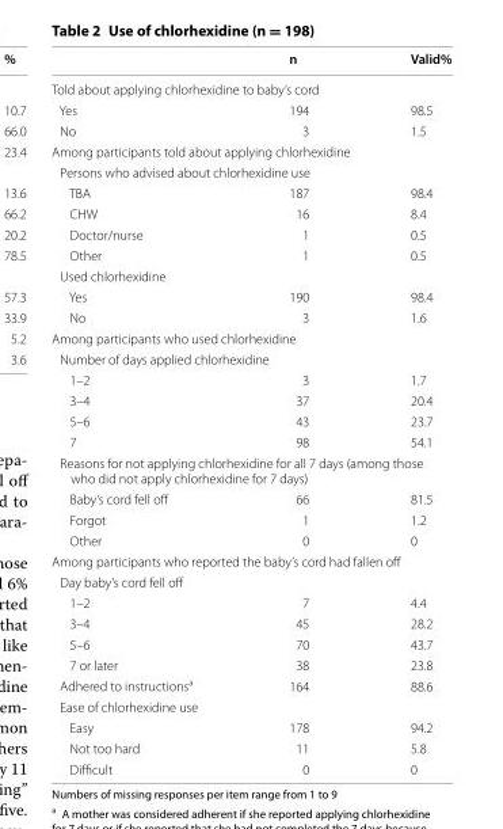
<table><thead><tr><td></td><td>n</td><td>Valid%</td></tr></thead><tbody><tr><td colspan="3">Told about applying chlorhexidine to baby’s cord</td></tr><tr><td>Yes</td><td>194</td><td>98.5</td></tr><tr><td>No</td><td>3</td><td>1.5</td></tr><tr><td colspan="3">Among participants told about applying chlorhexidine</td></tr><tr><td colspan="3">Persons who advised about chlorhexidine use</td></tr><tr><td>TBA</td><td>187</td><td>98.4</td></tr><tr><td>CHW</td><td>16</td><td>8.4</td></tr><tr><td>Doctor/nurse</td><td>1</td><td>0.5</td></tr><tr><td>Other</td><td>1</td><td>0.5</td></tr><tr><td colspan="3">Used chlorhexidine</td></tr><tr><td>Yes</td><td>190</td><td>98.4</td></tr><tr><td>No</td><td>3</td><td>1.6</td></tr><tr><td colspan="3">Among participants who used chlorhexidine</td></tr><tr><td colspan="3">Number of days applied chlorhexidine</td></tr><tr><td>1–2</td><td>3</td><td>1.7</td></tr><tr><td>3–4</td><td>37</td><td>20.4</td></tr><tr><td>5–6</td><td>43</td><td>23.7</td></tr><tr><td>7</td><td>98</td><td>54.1</td></tr><tr><td colspan="3">Reasons for not applying chlorhexidine for all 7 days (among those who did not apply chlorhexidine for 7 days)</td></tr><tr><td>Baby’s cord fell off</td><td>66</td><td>81.5</td></tr><tr><td>Forgot</td><td>1</td><td>1.2</td></tr><tr><td>Other</td><td>0</td><td>0</td></tr><tr><td colspan="3">Among participants who reported the baby’s cord had fallen off</td></tr><tr><td colspan="3">Day baby’s cord fell off</td></tr><tr><td>1–2</td><td>7</td><td>4.4</td></tr><tr><td>3–4</td><td>45</td><td>28.2</td></tr><tr><td>5–6</td><td>70</td><td>43.7</td></tr><tr><td>7 or later</td><td>38</td><td>23.8</td></tr><tr><td>Adhered to instructions<sup>a</sup></td><td>164</td><td>88.6</td></tr><tr><td colspan="3">Ease of chlorhexidine use</td></tr><tr><td>Easy</td><td>178</td><td>94.2</td></tr><tr><td>Not too hard</td><td>11</td><td>5.8</td></tr><tr><td>Difficult</td><td>0</td><td>0</td></tr></tbody></table>